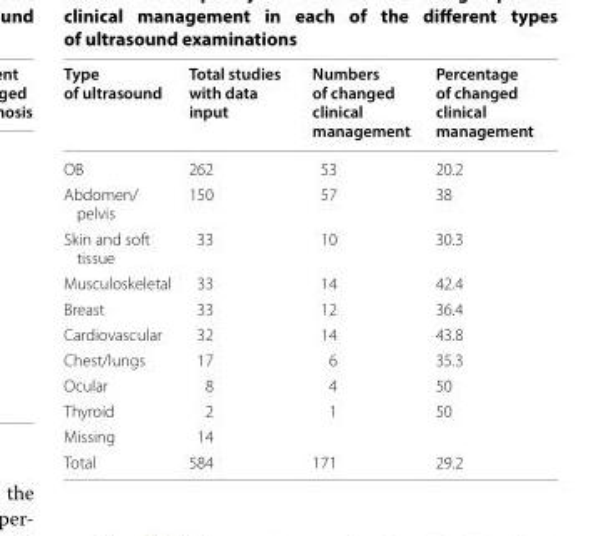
<table><thead><tr><td>Type of ultrasound</td><td>Total studies with data input</td><td>Numbers of changed clinical management</td><td>Percentage of changed clinical management</td></tr></thead><tbody><tr><td>OB</td><td>262</td><td>53</td><td>20.2</td></tr><tr><td>Abdomen/ pelvis</td><td>150</td><td>57</td><td>38</td></tr><tr><td>Skin and soft tissue</td><td>33</td><td>10</td><td>30.3</td></tr><tr><td>Musculoskeletal</td><td>33</td><td>14</td><td>42.4</td></tr><tr><td>Breast</td><td>33</td><td>12</td><td>36.4</td></tr><tr><td>Cardiovascular</td><td>32</td><td>14</td><td>43.8</td></tr><tr><td>Chest/lungs</td><td>17</td><td>6</td><td>35.3</td></tr><tr><td>Ocular</td><td>8</td><td>4</td><td>50</td></tr><tr><td>Thyroid</td><td>2</td><td>1</td><td>50</td></tr><tr><td>Missing</td><td>14</td><td></td><td></td></tr><tr><td>Total</td><td>584</td><td>171</td><td>29.2</td></tr></tbody></table>